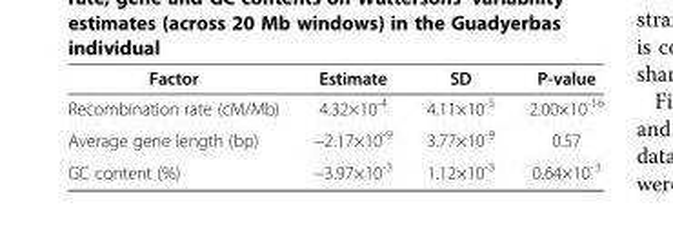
<table><thead><tr><td>Factor</td><td>Estimate</td><td>SD</td><td>P-value</td></tr></thead><tbody><tr><td>Recombination rate (cM/Mb)</td><td>4.32×10<sup>-4</sup></td><td>4.11×10<sup>-5</sup></td><td>2.00×10<sup>-16</sup></td></tr><tr><td>Average gene length (bp)</td><td>−2.17×10<sup>-9</sup></td><td>3.77×10<sup>-9</sup></td><td>0.57</td></tr><tr><td>GC content (%)</td><td>−3.97×10<sup>-3</sup></td><td>1.12×10<sup>-3</sup></td><td>0.64×10<sup>-3</sup></td></tr></tbody></table>